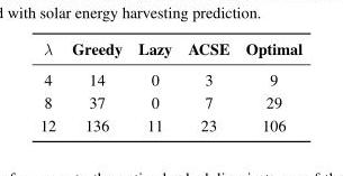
<table><thead><tr><td>λ</td><td>Greedy</td><td>Lazy</td><td>ACSE</td><td>Optimal</td></tr></thead><tbody><tr><td>4</td><td>14</td><td>0</td><td>3</td><td>9</td></tr><tr><td>8</td><td>37</td><td>0</td><td>7</td><td>29</td></tr><tr><td>12</td><td>136</td><td>11</td><td>23</td><td>106</td></tr></tbody></table>